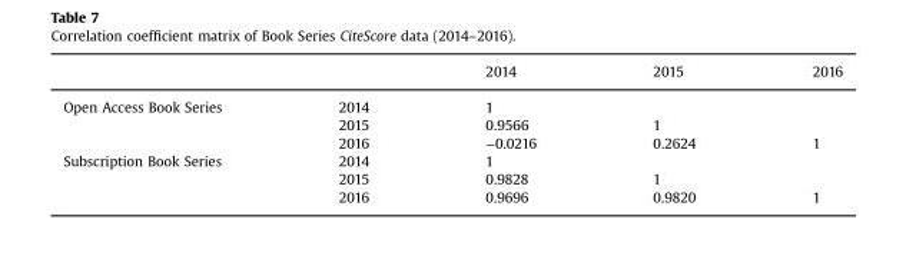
<table><thead><tr><td></td><td></td><td>2014</td><td>2015</td><td>2016</td></tr></thead><tbody><tr><td rowspan="3">Open Access Book Series</td><td>2014</td><td>1</td><td></td><td></td></tr><tr><td>2015</td><td>0.9566</td><td>1</td><td></td></tr><tr><td>2016</td><td>−0.0216</td><td>0.2624</td><td>1</td></tr><tr><td rowspan="3">Subscription Book Series</td><td>2014</td><td>1</td><td></td><td></td></tr><tr><td>2015</td><td>0.9828</td><td>1</td><td></td></tr><tr><td>2016</td><td>0.9696</td><td>0.9820</td><td>1</td></tr></tbody></table>